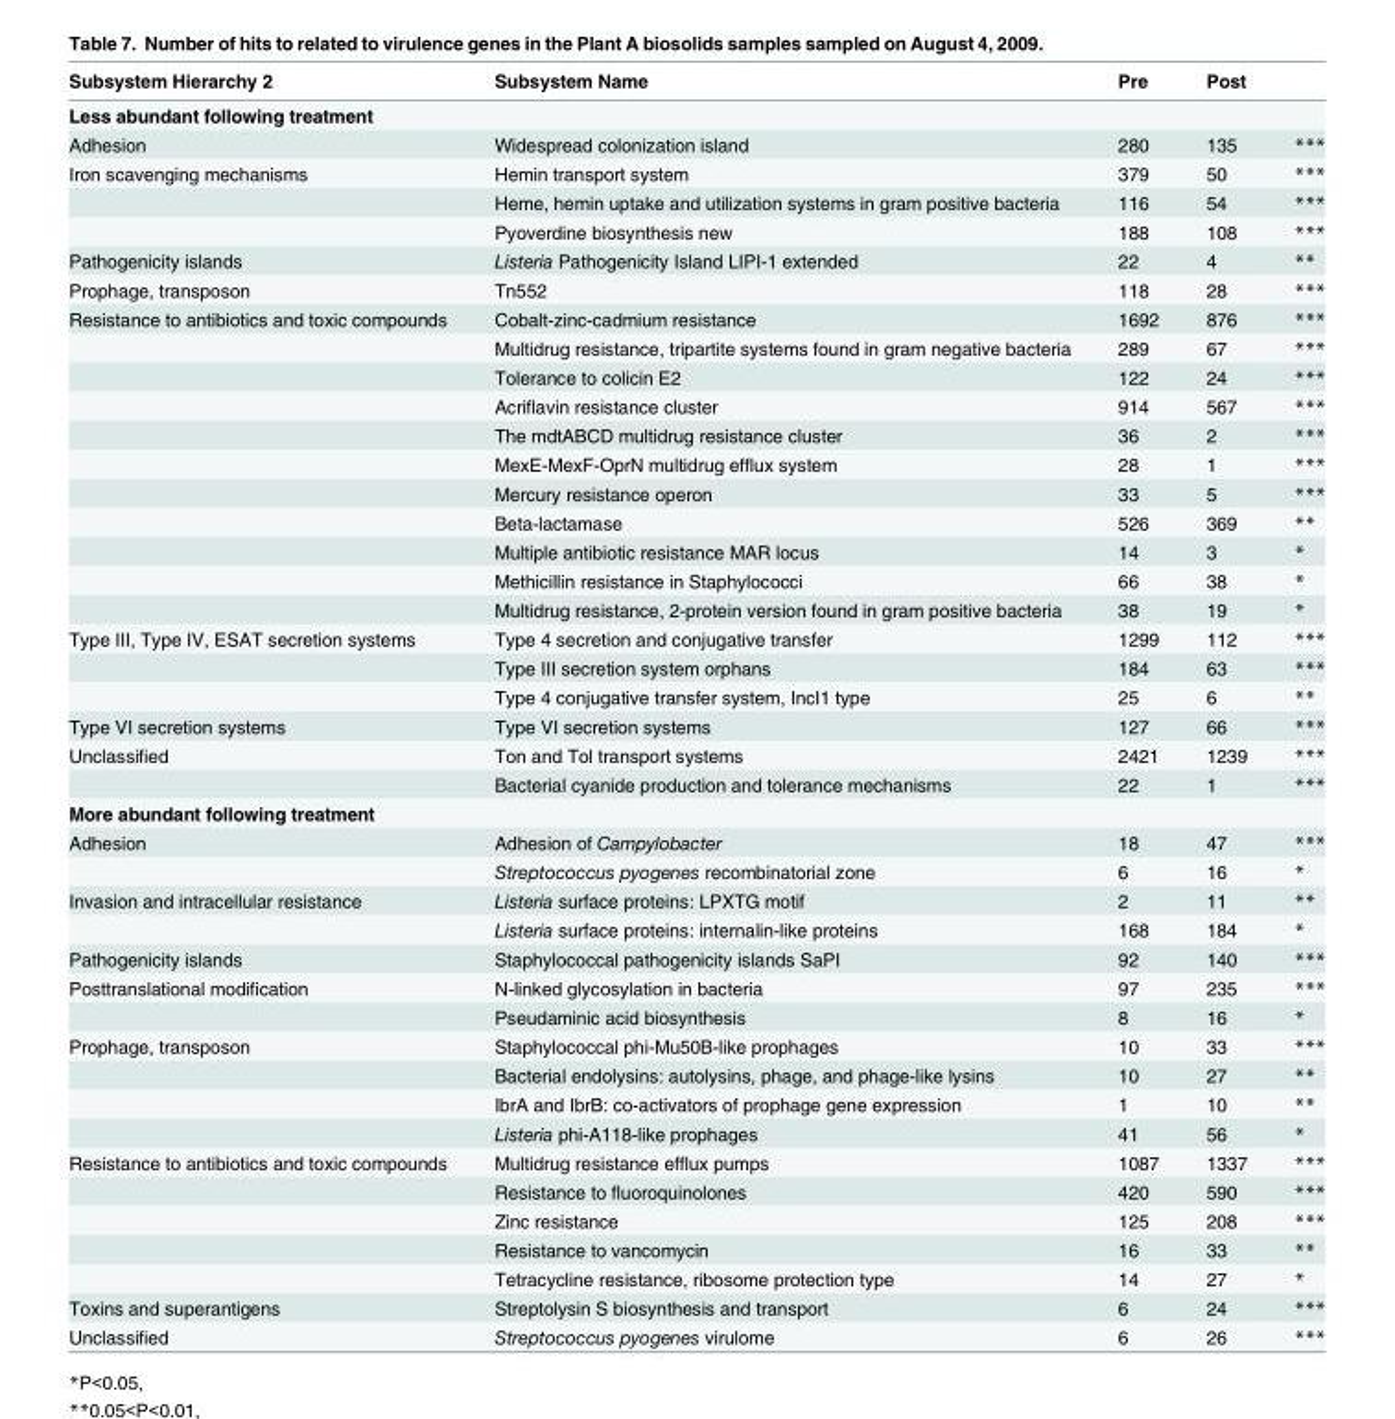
<table><thead><tr><td>Subsystem Hierarchy 2</td><td>Subsystem Name</td><td>Pre</td><td>Post</td><td></td></tr></thead><tbody><tr><td colspan="5">Less abundant following treatment</td></tr><tr><td>Adhesion</td><td>Widespread colonization island</td><td>280</td><td>135</td><td>***</td></tr><tr><td rowspan="3">Iron scavenging mechanisms</td><td>Hemin transport system</td><td>379</td><td>50</td><td>***</td></tr><tr><td>Heme, hemin uptake and utilization systems in gram positive bacteria</td><td>116</td><td>54</td><td>***</td></tr><tr><td>Pyoverdine biosynthesis new</td><td>188</td><td>108</td><td>***</td></tr><tr><td>Pathogenicity islands</td><td>Listeria Pathogenicity Island LIPI-1 extended</td><td>22</td><td>4</td><td>**</td></tr><tr><td>Prophage, transposon</td><td>Tn552</td><td>118</td><td>28</td><td>***</td></tr><tr><td rowspan="11">Resistance to antibiotics and toxic compounds</td><td>Cobalt-zinc-cadmium resistance</td><td>1692</td><td>876</td><td>***</td></tr><tr><td>Multidrug resistance, tripartite systems found in gram negative bacteria</td><td>289</td><td>67</td><td>***</td></tr><tr><td>Tolerance to colicin E2</td><td>122</td><td>24</td><td>***</td></tr><tr><td>Acriflavin resistance cluster</td><td>914</td><td>567</td><td>***</td></tr><tr><td>The mdtABCD multidrug resistance cluster</td><td>36</td><td>2</td><td>***</td></tr><tr><td>MexE-MexF-OprN multidrug efflux system</td><td>28</td><td>1</td><td>***</td></tr><tr><td>Mercury resistance operon</td><td>33</td><td>5</td><td>***</td></tr><tr><td>Beta-lactamase</td><td>526</td><td>369</td><td>**</td></tr><tr><td>Multiple antibiotic resistance MAR locus</td><td>14</td><td>3</td><td>*</td></tr><tr><td>Methicillin resistance in Staphylococci</td><td>66</td><td>38</td><td>*</td></tr><tr><td>Multidrug resistance, 2-protein version found in gram positive bacteria</td><td>38</td><td>19</td><td>*</td></tr><tr><td rowspan="3">Type III, Type IV, ESAT secretion systems</td><td>Type 4 secretion and conjugative transfer</td><td>1299</td><td>112</td><td>***</td></tr><tr><td>Type III secretion system orphans</td><td>184</td><td>63</td><td>***</td></tr><tr><td>Type 4 conjugative transfer system, IncI1 type</td><td>25</td><td>6</td><td>**</td></tr><tr><td>Type VI secretion systems</td><td>Type VI secretion systems</td><td>127</td><td>66</td><td>***</td></tr><tr><td rowspan="2">Unclassified</td><td>Ton and Tol transport systems</td><td>2421</td><td>1239</td><td>***</td></tr><tr><td>Bacterial cyanide production and tolerance mechanisms</td><td>22</td><td>1</td><td>***</td></tr><tr><td colspan="5">More abundant following treatment</td></tr><tr><td rowspan="2">Adhesion</td><td>Adhesion of Campylobacter</td><td>18</td><td>47</td><td>***</td></tr><tr><td>Streptococcus pyogenes recombinatorial zone</td><td>6</td><td>16</td><td>*</td></tr><tr><td rowspan="2">Invasion and intracellular resistance</td><td>Listeria surface proteins: LPXTG motif</td><td>2</td><td>11</td><td>**</td></tr><tr><td>Listeria surface proteins: internalin-like proteins</td><td>168</td><td>184</td><td>*</td></tr><tr><td>Pathogenicity islands</td><td>Staphylococcal pathogenicity islands SaPI</td><td>92</td><td>140</td><td>***</td></tr><tr><td rowspan="2">Posttranslational modification</td><td>N-linked glycosylation in bacteria</td><td>97</td><td>235</td><td>***</td></tr><tr><td>Pseudaminic acid biosynthesis</td><td>8</td><td>16</td><td>*</td></tr><tr><td rowspan="4">Prophage, transposon</td><td>Staphylococcal phi-Mu50B-like prophages</td><td>10</td><td>33</td><td>***</td></tr><tr><td>Bacterial endolysins: autolysins, phage, and phage-like lysins</td><td>10</td><td>27</td><td>**</td></tr><tr><td>IbrA and IbrB: co-activators of prophage gene expression</td><td>1</td><td>10</td><td>**</td></tr><tr><td>Listeria phi-A118-like prophages</td><td>41</td><td>56</td><td>*</td></tr><tr><td rowspan="5">Resistance to antibiotics and toxic compounds</td><td>Multidrug resistance efflux pumps</td><td>1087</td><td>1337</td><td>***</td></tr><tr><td>Resistance to fluoroquinolones</td><td>420</td><td>590</td><td>***</td></tr><tr><td>Zinc resistance</td><td>125</td><td>208</td><td>***</td></tr><tr><td>Resistance to vancomycin</td><td>16</td><td>33</td><td>**</td></tr><tr><td>Tetracycline resistance, ribosome protection type</td><td>14</td><td>27</td><td>*</td></tr><tr><td>Toxins and superantigens</td><td>Streptolysin S biosynthesis and transport</td><td>6</td><td>24</td><td>***</td></tr><tr><td>Unclassified</td><td>Streptococcus pyogenes virulome</td><td>6</td><td>26</td><td>***</td></tr></tbody></table>